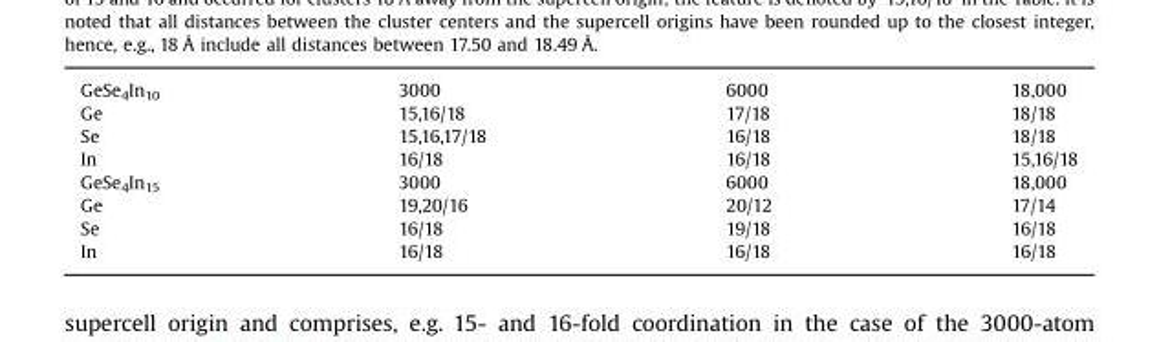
<table><tbody><tr><td>GeSe<sub>4</sub>In<sub>10</sub></td><td>3000</td><td>6000</td><td>18,000</td></tr><tr><td>Ge</td><td>15,16/18</td><td>17/18</td><td>18/18</td></tr><tr><td>Se</td><td>15,16,17/18</td><td>16/18</td><td>18/18</td></tr><tr><td>In</td><td>16/18</td><td>16/18</td><td>15,16/18</td></tr><tr><td>GeSe<sub>4</sub>In<sub>15</sub></td><td>3000</td><td>6000</td><td>18,000</td></tr><tr><td>Ge</td><td>19,20/16</td><td>20/12</td><td>17/14</td></tr><tr><td>Se</td><td>16/18</td><td>19/18</td><td>16/18</td></tr><tr><td>In</td><td>16/18</td><td>16/18</td><td>16/18</td></tr></tbody></table>